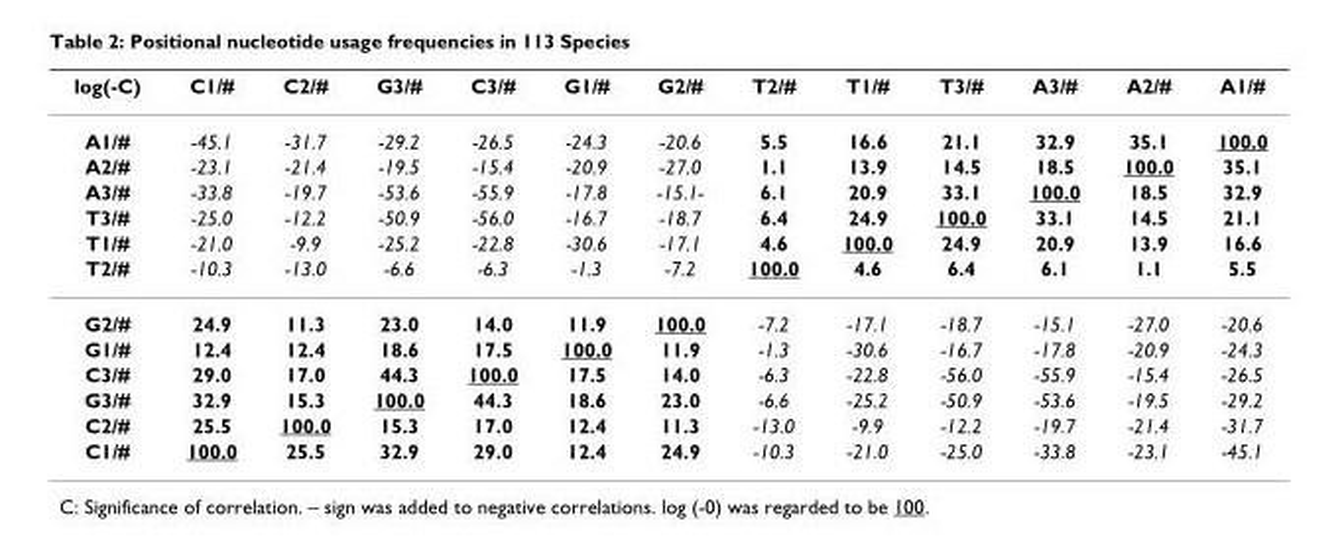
<table><thead><tr><td>log(-C)</td><td>C1/#</td><td>C2/#</td><td>G3/#</td><td>C3/#</td><td>G1/#</td><td>G2/#</td><td>T2/#</td><td>T1/#</td><td>T3/#</td><td>A3/#</td><td>A2/#</td><td>A1/#</td></tr></thead><tbody><tr><td>A1/#</td><td>-45.1</td><td>-31.7</td><td>-29.2</td><td>-26.5</td><td>-24.3</td><td>-20.6</td><td>5.5</td><td>16.6</td><td>21.1</td><td>32.9</td><td>35.1</td><td>100.0</td></tr><tr><td>A2/#</td><td>-23.1</td><td>-21.4</td><td>-19.5</td><td>-15.4</td><td>-20.9</td><td>-27.0</td><td>1.1</td><td>13.9</td><td>14.5</td><td>18.5</td><td>100.0</td><td>35.1</td></tr><tr><td>A3/#</td><td>-33.8</td><td>-19.7</td><td>-53.6</td><td>-55.9</td><td>-17.8</td><td>-15.1-</td><td>6.1</td><td>20.9</td><td>33.1</td><td>100.0</td><td>18.5</td><td>32.9</td></tr><tr><td>T3/#</td><td>-25.0</td><td>-12.2</td><td>-50.9</td><td>-56.0</td><td>-16.7</td><td>-18.7</td><td>6.4</td><td>24.9</td><td>100.0</td><td>33.1</td><td>14.5</td><td>21.1</td></tr><tr><td>T1/#</td><td>-21.0</td><td>-9.9</td><td>-25.2</td><td>-22.8</td><td>-30.6</td><td>-17.1</td><td>4.6</td><td>100.0</td><td>24.9</td><td>20.9</td><td>13.9</td><td>16.6</td></tr><tr><td>T2/#</td><td>-10.3</td><td>-13.0</td><td>-6.6</td><td>-6.3</td><td>-1.3</td><td>-7.2</td><td>100.0</td><td>4.6</td><td>6.4</td><td>6.1</td><td>1.1</td><td>5.5</td></tr><tr><td>G2/#</td><td>24.9</td><td>11.3</td><td>23.0</td><td>14.0</td><td>11.9</td><td>100.0</td><td>-7.2</td><td>-17.1</td><td>-18.7</td><td>-15.1</td><td>-27.0</td><td>-20.6</td></tr><tr><td>G1/#</td><td>12.4</td><td>12.4</td><td>18.6</td><td>17.5</td><td>100.0</td><td>11.9</td><td>-1.3</td><td>-30.6</td><td>-16.7</td><td>-17.8</td><td>-20.9</td><td>-24.3</td></tr><tr><td>C3/#</td><td>29.0</td><td>17.0</td><td>44.3</td><td>100.0</td><td>17.5</td><td>14.0</td><td>-6.3</td><td>-22.8</td><td>-56.0</td><td>-55.9</td><td>-15.4</td><td>-26.5</td></tr><tr><td>G3/#</td><td>32.9</td><td>15.3</td><td>100.0</td><td>44.3</td><td>18.6</td><td>23.0</td><td>-6.6</td><td>-25.2</td><td>-50.9</td><td>-53.6</td><td>-19.5</td><td>-29.2</td></tr><tr><td>C2/#</td><td>25.5</td><td>100.0</td><td>15.3</td><td>17.0</td><td>12.4</td><td>11.3</td><td>-13.0</td><td>-9.9</td><td>-12.2</td><td>-19.7</td><td>-21.4</td><td>-31.7</td></tr><tr><td>C1/#</td><td>100.0</td><td>25.5</td><td>32.9</td><td>29.0</td><td>12.4</td><td>24.9</td><td>-10.3</td><td>-21.0</td><td>-25.0</td><td>-33.8</td><td>-23.1</td><td>-45.1</td></tr></tbody></table>